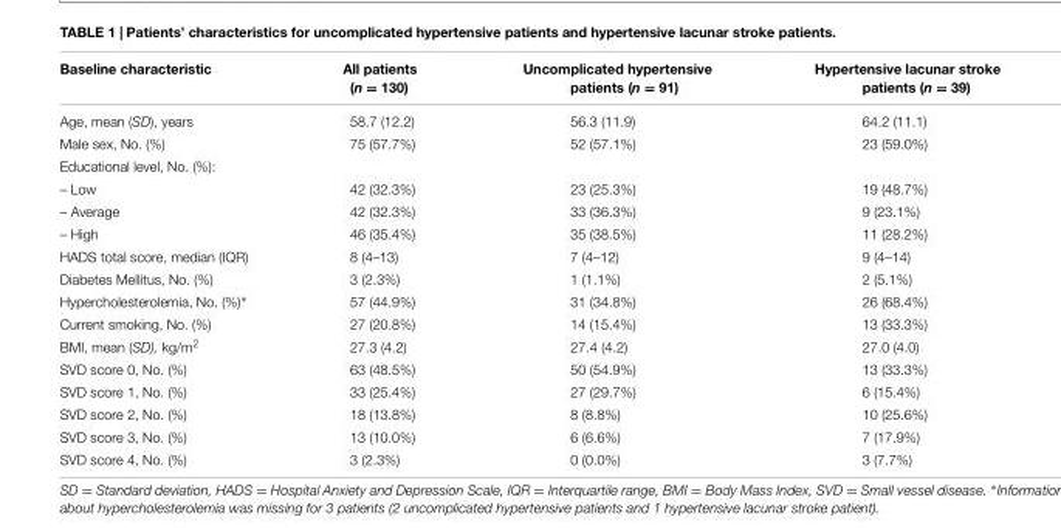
<table><thead><tr><td>Baseline characteristic</td><td>All patients (n = 130)</td><td>Uncomplicated hypertensive patients (n = 91)</td><td>Hypertensive lacunar stroke patients (n = 39)</td></tr></thead><tbody><tr><td>Age, mean (SD), years</td><td>58.7 (12.2)</td><td>56.3 (11.9)</td><td>64.2 (11.1)</td></tr><tr><td>Male sex, No. (%)</td><td>75 (57.7%)</td><td>52 (57.1%)</td><td>23 (59.0%)</td></tr><tr><td colspan="4">Educational level, No. (%):</td></tr><tr><td>– Low</td><td>42 (32.3%)</td><td>23 (25.3%)</td><td>19 (48.7%)</td></tr><tr><td>– Average</td><td>42 (32.3%)</td><td>33 (36.3%)</td><td>9 (23.1%)</td></tr><tr><td>– High</td><td>46 (35.4%)</td><td>35 (38.5%)</td><td>11 (28.2%)</td></tr><tr><td>HADS total score, median (IQR)</td><td>8 (4–13)</td><td>7 (4–12)</td><td>9 (4–14)</td></tr><tr><td>Diabetes Mellitus, No. (%)</td><td>3 (2.3%)</td><td>1 (1.1%)</td><td>2 (5.1%)</td></tr><tr><td>Hypercholesterolemia, No. (%)∗</td><td>57 (44.9%)</td><td>31 (34.8%)</td><td>26 (68.4%)</td></tr><tr><td>Current smoking, No. (%)</td><td>27 (20.8%)</td><td>14 (15.4%)</td><td>13 (33.3%)</td></tr><tr><td>BMI, mean (SD), kg/m<sup>2</sup></td><td>27.3 (4.2)</td><td>27.4 (4.2)</td><td>27.0 (4.0)</td></tr><tr><td>SVD score 0, No. (%)</td><td>63 (48.5%)</td><td>50 (54.9%)</td><td>13 (33.3%)</td></tr><tr><td>SVD score 1, No. (%)</td><td>33 (25.4%)</td><td>27 (29.7%)</td><td>6 (15.4%)</td></tr><tr><td>SVD score 2, No. (%)</td><td>18 (13.8%)</td><td>8 (8.8%)</td><td>10 (25.6%)</td></tr><tr><td>SVD score 3, No. (%)</td><td>13 (10.0%)</td><td>6 (6.6%)</td><td>7 (17.9%)</td></tr><tr><td>SVD score 4, No. (%)</td><td>3 (2.3%)</td><td>0 (0.0%)</td><td>3 (7.7%)</td></tr></tbody></table>